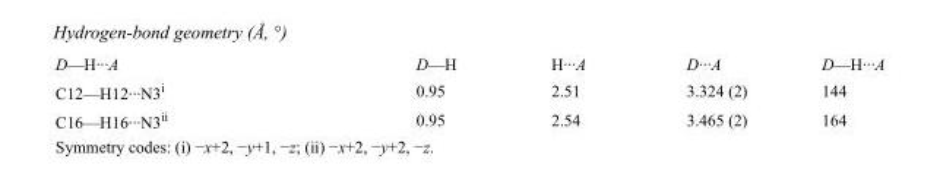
<table><tbody><tr><td>D—H···A</td><td>D—H</td><td>H···A</td><td>D···A</td><td>D—H···A</td></tr><tr><td>C12—H12···N3<sup>i</sup></td><td>0.95</td><td>2.51</td><td>3.324 (2)</td><td>144</td></tr><tr><td>C16—H16···N3<sup>ii</sup></td><td>0.95</td><td>2.54</td><td>3.465 (2)</td><td>164</td></tr></tbody></table>